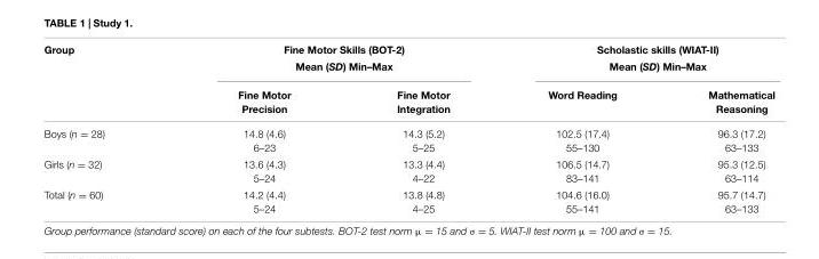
<table><thead><tr><td rowspan="3">Group</td><td rowspan="2" colspan="2">Fine Motor Skills (BOT-2) Mean (SD) Min–Max</td><td rowspan="2" colspan="2">Scholastic skills (WIAT-II) Mean (SD) Min–Max</td></tr><tr></tr><tr><td>Fine Motor Precision</td><td>Fine Motor Integration</td><td>Word Reading</td><td>Mathematical Reasoning</td></tr></thead><tbody><tr><td>Boys (n = 28)</td><td>14.8 (4.6) 6–23</td><td>14.3 (5.2) 5–25</td><td>102.5 (17.4) 55–130</td><td>96.3 (17.2) 63–133</td></tr><tr><td>Girls (n = 32)</td><td>13.6 (4.3) 5–24</td><td>13.3 (4.4) 4–22</td><td>106.5 (14.7) 83–141</td><td>95.3 (12.5) 63–114</td></tr><tr><td>Total (n = 60)</td><td>14.2 (4.4) 5–24</td><td>13.8 (4.8) 4–25</td><td>104.6 (16.0) 55–141</td><td>95.7 (14.7) 63–133</td></tr></tbody></table>